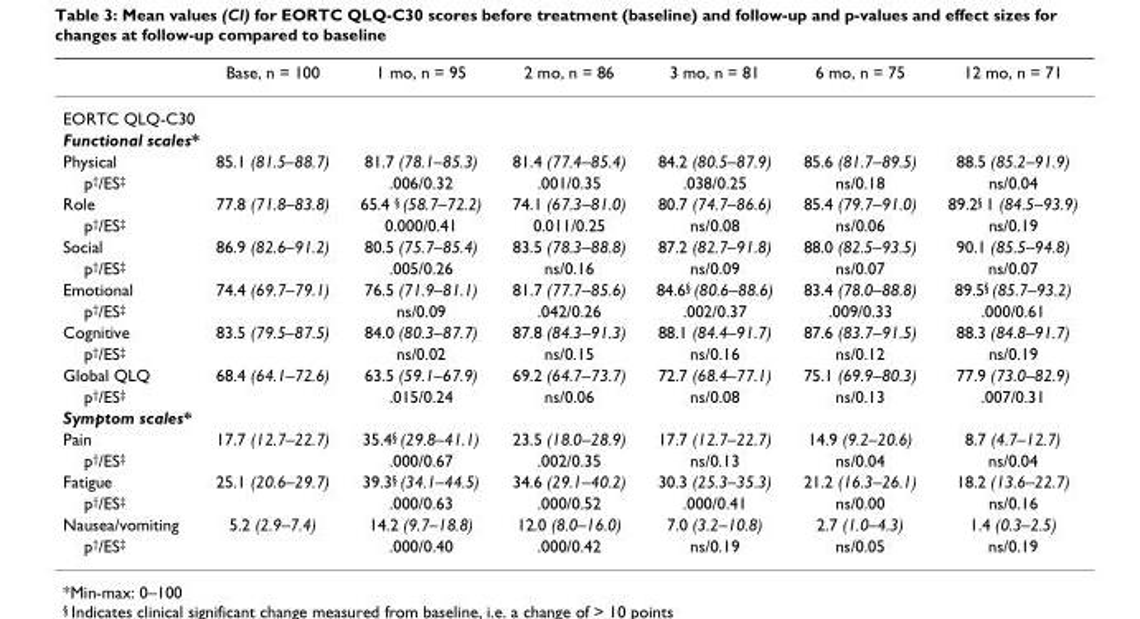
<table><thead><tr><td></td><td>Base, n = 100</td><td>1 mo, n = 95</td><td>2 mo, n = 86</td><td>3 mo, n = 81</td><td>6 mo, n = 75</td><td>12 mo, n = 71</td></tr></thead><tbody><tr><td colspan="7">EORTC QLQ-C30</td></tr><tr><td colspan="7">Functional scales*</td></tr><tr><td>Physical</td><td>85.1 (81.5–88.7)</td><td>81.7 (78.1–85.3)</td><td>81.4 (77.4–85.4)</td><td>84.2 (80.5–87.9)</td><td>85.6 (81.7–89.5)</td><td>88.5 (85.2–91.9)</td></tr><tr><td>p<sup>†</sup>/ES<sup>‡</sup></td><td></td><td>.006/0.32</td><td>.001/0.35</td><td>.038/0.25</td><td>ns/0.18</td><td>ns/0.04</td></tr><tr><td>Role</td><td>77.8 (71.8–83.8)</td><td>65.4 <sup>§</sup> (58.7–72.2)</td><td>74.1 (67.3–81.0)</td><td>80.7 (74.7–86.6)</td><td>85.4 (79.7–91.0)</td><td>89.2<sup>§</sup> 1 (84.5–93.9)</td></tr><tr><td>p<sup>†</sup>/ES<sup>‡</sup></td><td></td><td>0.000/0.41</td><td>0.011/0.25</td><td>ns/0.08</td><td>ns/0.06</td><td>ns/0.19</td></tr><tr><td>Social</td><td>86.9 (82.6–91.2)</td><td>80.5 (75.7–85.4)</td><td>83.5 (78.3–88.8)</td><td>87.2 (82.7–91.8)</td><td>88.0 (82.5–93.5)</td><td>90.1 (85.5–94.8)</td></tr><tr><td>p<sup>†</sup>/ES<sup>‡</sup></td><td></td><td>.005/0.26</td><td>ns/0.16</td><td>ns/0.09</td><td>ns/0.07</td><td>ns/0.07</td></tr><tr><td>Emotional</td><td>74.4 (69.7–79.1)</td><td>76.5 (71.9–81.1)</td><td>81.7 (77.7–85.6)</td><td>84.6<sup>§</sup> (80.6–88.6)</td><td>83.4 (78.0–88.8)</td><td>89.5<sup>§</sup> (85.7–93.2)</td></tr><tr><td>p<sup>†</sup>/ES<sup>‡</sup></td><td></td><td>ns/0.09</td><td>.042/0.26</td><td>.002/0.37</td><td>.009/0.33</td><td>.000/0.61</td></tr><tr><td>Cognitive</td><td>83.5 (79.5–87.5)</td><td>84.0 (80.3–87.7)</td><td>87.8 (84.3–91.3)</td><td>88.1 (84.4–91.7)</td><td>87.6 (83.7–91.5)</td><td>88.3 (84.8–91.7)</td></tr><tr><td>p<sup>†</sup>/ES<sup>‡</sup></td><td></td><td>ns/0.02</td><td>ns/0.15</td><td>ns/0.16</td><td>ns/0.12</td><td>ns/0.19</td></tr><tr><td>Global QLQ</td><td>68.4 (64.1–72.6)</td><td>63.5 (59.1–67.9)</td><td>69.2 (64.7–73.7)</td><td>72.7 (68.4–77.1)</td><td>75.1 (69.9–80.3)</td><td>77.9 (73.0–82.9)</td></tr><tr><td>p<sup>†</sup>/ES<sup>‡</sup></td><td></td><td>.015/0.24</td><td>ns/0.06</td><td>ns/0.08</td><td>ns/0.13</td><td>.007/0.31</td></tr><tr><td colspan="7">Symptom scales*</td></tr><tr><td>Pain</td><td>17.7 (12.7–22.7)</td><td>35.4<sup>§</sup> (29.8–41.1)</td><td>23.5 (18.0–28.9)</td><td>17.7 (12.7–22.7)</td><td>14.9 (9.2–20.6)</td><td>8.7 (4.7–12.7)</td></tr><tr><td>p<sup>†</sup>/ES<sup>‡</sup></td><td></td><td>.000/0.67</td><td>.002/0.35</td><td>ns/0.13</td><td>ns/0.04</td><td>ns/0.04</td></tr><tr><td>Fatigue</td><td>25.1 (20.6–29.7)</td><td>39.3<sup>§</sup> (34.1–44.5)</td><td>34.6 (29.1–40.2)</td><td>30.3 (25.3–35.3)</td><td>21.2 (16.3–26.1)</td><td>18.2 (13.6–22.7)</td></tr><tr><td>p<sup>†</sup>/ES<sup>‡</sup></td><td></td><td>.000/0.63</td><td>.000/0.52</td><td>.000/0.41</td><td>ns/0.00</td><td>ns/0.16</td></tr><tr><td>Nausea/vomiting</td><td>5.2 (2.9–7.4)</td><td>14.2 (9.7–18.8)</td><td>12.0 (8.0–16.0)</td><td>7.0 (3.2–10.8)</td><td>2.7 (1.0–4.3)</td><td>1.4 (0.3–2.5)</td></tr><tr><td>p<sup>†</sup>/ES<sup>‡</sup></td><td></td><td>.000/0.40</td><td>.000/0.42</td><td>ns/0.19</td><td>ns/0.05</td><td>ns/0.19</td></tr></tbody></table>